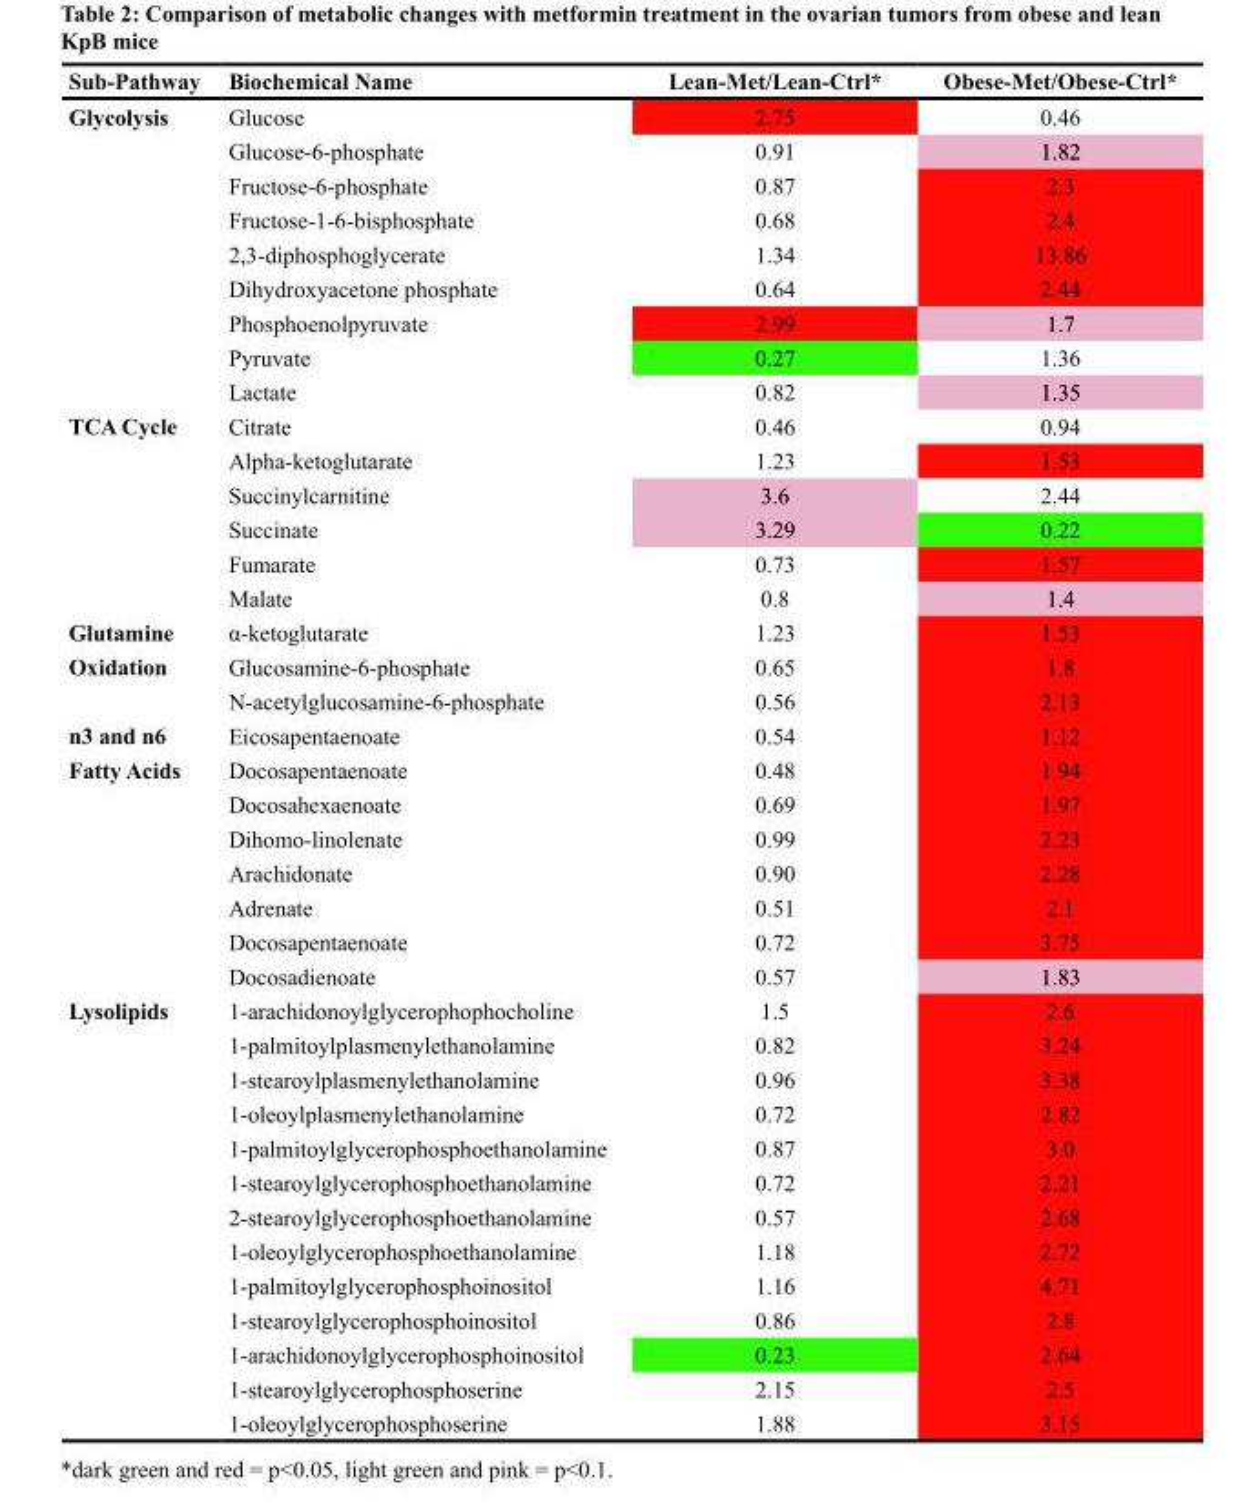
<table><thead><tr><td>Sub-Pathway</td><td>Biochemical Name</td><td>Lean-Met/Lean-Ctrl*</td><td>Obese-Met/Obese-Ctrl*</td></tr></thead><tbody><tr><td rowspan="9">Glycolysis</td><td>Glucose</td><td>2.75</td><td>0.46</td></tr><tr><td>Glucose-6-phosphate</td><td>0.91</td><td>1.82</td></tr><tr><td>Fructose-6-phosphate</td><td>0.87</td><td>2.3</td></tr><tr><td>Fructose-1-6-bisphosphate</td><td>0.68</td><td>2.4</td></tr><tr><td>2,3-diphosphoglycerate</td><td>1.34</td><td>13.86</td></tr><tr><td>Dihydroxyacetone phosphate</td><td>0.64</td><td>2.44</td></tr><tr><td>Phosphoenolpyruvate</td><td>2.99</td><td>1.7</td></tr><tr><td>Pyruvate</td><td>0.27</td><td>1.36</td></tr><tr><td>Lactate</td><td>0.82</td><td>1.35</td></tr><tr><td rowspan="6">TCA Cycle</td><td>Citrate</td><td>0.46</td><td>0.94</td></tr><tr><td>Alpha-ketoglutarate</td><td>1.23</td><td>1.53</td></tr><tr><td>Succinylcarnitine</td><td>3.6</td><td>2.44</td></tr><tr><td>Succinate</td><td>3.29</td><td>0.22</td></tr><tr><td>Fumarate</td><td>0.73</td><td>1.57</td></tr><tr><td>Malate</td><td>0.8</td><td>1.4</td></tr><tr><td>Glutamine</td><td>α-ketoglutarate</td><td>1.23</td><td>1.53</td></tr><tr><td rowspan="2">Oxidation</td><td>Glucosamine-6-phosphate</td><td>0.65</td><td>1.8</td></tr><tr><td>N-acetylglucosamine-6-phosphate</td><td>0.56</td><td>2.13</td></tr><tr><td>n3 and n6</td><td>Eicosapentaenoate</td><td>0.54</td><td>1.12</td></tr><tr><td rowspan="7">Fatty Acids</td><td>Docosapentaenoate</td><td>0.48</td><td>1.94</td></tr><tr><td>Docosahexaenoate</td><td>0.69</td><td>1.97</td></tr><tr><td>Dihomo-linolenate</td><td>0.99</td><td>2.23</td></tr><tr><td>Arachidonate</td><td>0.90</td><td>2.28</td></tr><tr><td>Adrenate</td><td>0.51</td><td>2.1</td></tr><tr><td>Docosapentaenoate</td><td>0.72</td><td>3.75</td></tr><tr><td>Docosadienoate</td><td>0.57</td><td>1.83</td></tr><tr><td rowspan="13">Lysolipids</td><td>1-arachidonoylglycerophophocholine</td><td>1.5</td><td>2.6</td></tr><tr><td>1-palmitoylplasmenylethanolamine</td><td>0.82</td><td>3.24</td></tr><tr><td>1-stearoylplasmenylethanolamine</td><td>0.96</td><td>3.38</td></tr><tr><td>1-oleoylplasmenylethanolamine</td><td>0.72</td><td>2.82</td></tr><tr><td>1-palmitoylglycerophosphoethanolamine</td><td>0.87</td><td>3.0</td></tr><tr><td>1-stearoylglycerophosphoethanolamine</td><td>0.72</td><td>2.21</td></tr><tr><td>2-stearoylglycerophosphoethanolamine</td><td>0.57</td><td>2.68</td></tr><tr><td>1-oleoylglycerophosphoethanolamine</td><td>1.18</td><td>2.72</td></tr><tr><td>1-palmitoylglycerophosphoinositol</td><td>1.16</td><td>4.71</td></tr><tr><td>1-stearoylglycerophosphoinositol</td><td>0.86</td><td>2.8</td></tr><tr><td>1-arachidonoylglycerophosphoinositol</td><td>0.23</td><td>2.64</td></tr><tr><td>1-stearoylglycerophosphoserine</td><td>2.15</td><td>2.5</td></tr><tr><td>1-oleoylglycerophosphoserine</td><td>1.88</td><td>3.15</td></tr></tbody></table>